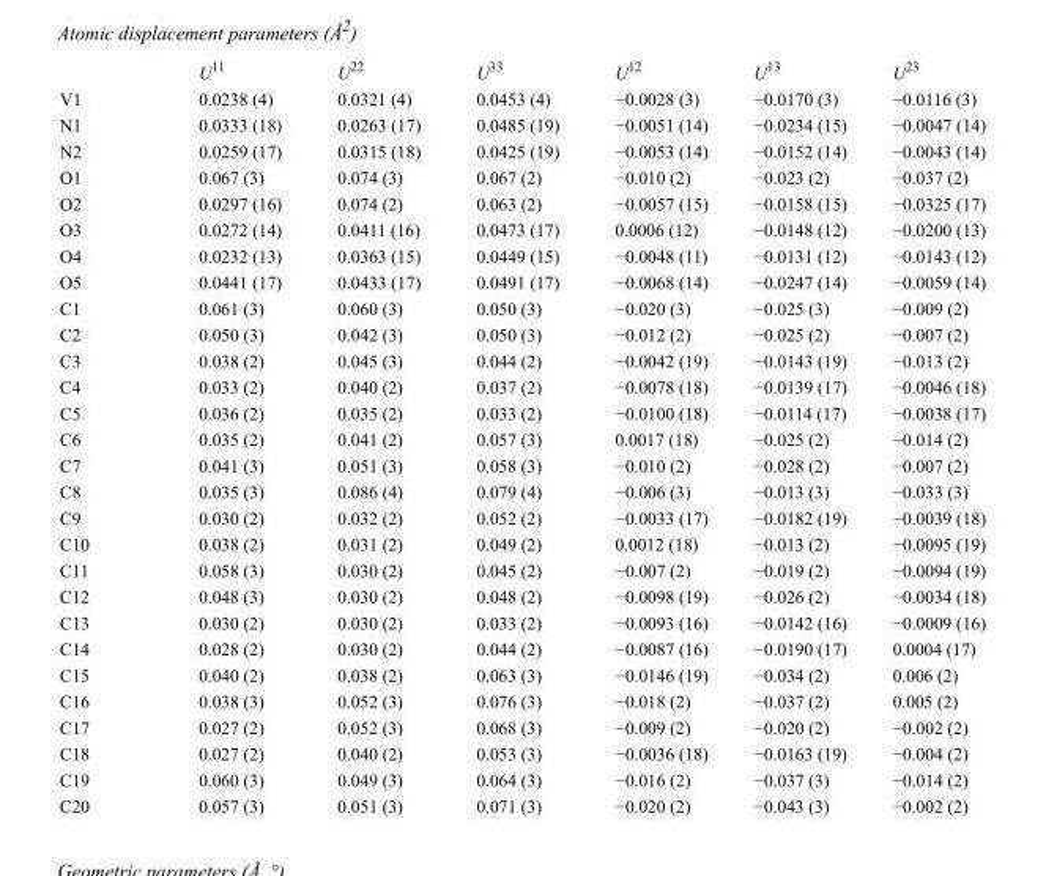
<table><thead><tr><td></td><td>U<sup>11</sup></td><td>U<sup>22</sup></td><td>U<sup>33</sup></td><td>U<sup>12</sup></td><td>U<sup>13</sup></td><td>U<sup>23</sup></td></tr></thead><tbody><tr><td>V1</td><td>0.0238 (4)</td><td>0.0321 (4)</td><td>0.0453 (4)</td><td>−0.0028 (3)</td><td>−0.0170 (3)</td><td>−0.0116 (3)</td></tr><tr><td>N1</td><td>0.0333 (18)</td><td>0.0263 (17)</td><td>0.0485 (19)</td><td>−0.0051 (14)</td><td>−0.0234 (15)</td><td>−0.0047 (14)</td></tr><tr><td>N2</td><td>0.0259 (17)</td><td>0.0315 (18)</td><td>0.0425 (19)</td><td>−0.0053 (14)</td><td>−0.0152 (14)</td><td>−0.0043 (14)</td></tr><tr><td>O1</td><td>0.067 (3)</td><td>0.074 (3)</td><td>0.067 (2)</td><td>−0.010 (2)</td><td>−0.023 (2)</td><td>−0.037 (2)</td></tr><tr><td>O2</td><td>0.0297 (16)</td><td>0.074 (2)</td><td>0.063 (2)</td><td>−0.0057 (15)</td><td>−0.0158 (15)</td><td>−0.0325 (17)</td></tr><tr><td>O3</td><td>0.0272 (14)</td><td>0.0411 (16)</td><td>0.0473 (17)</td><td>0.0006 (12)</td><td>−0.0148 (12)</td><td>−0.0200 (13)</td></tr><tr><td>O4</td><td>0.0232 (13)</td><td>0.0363 (15)</td><td>0.0449 (15)</td><td>−0.0048 (11)</td><td>−0.0131 (12)</td><td>−0.0143 (12)</td></tr><tr><td>O5</td><td>0.0441 (17)</td><td>0.0433 (17)</td><td>0.0491 (17)</td><td>−0.0068 (14)</td><td>−0.0247 (14)</td><td>−0.0059 (14)</td></tr><tr><td>C1</td><td>0.061 (3)</td><td>0.060 (3)</td><td>0.050 (3)</td><td>−0.020 (3)</td><td>−0.025 (3)</td><td>−0.009 (2)</td></tr><tr><td>C2</td><td>0.050 (3)</td><td>0.042 (3)</td><td>0.050 (3)</td><td>−0.012 (2)</td><td>−0.025 (2)</td><td>−0.007 (2)</td></tr><tr><td>C3</td><td>0.038 (2)</td><td>0.045 (3)</td><td>0.044 (2)</td><td>−0.0042 (19)</td><td>−0.0143 (19)</td><td>−0.013 (2)</td></tr><tr><td>C4</td><td>0.033 (2)</td><td>0.040 (2)</td><td>0.037 (2)</td><td>−0.0078 (18)</td><td>−0.0139 (17)</td><td>−0.0046 (18)</td></tr><tr><td>C5</td><td>0.036 (2)</td><td>0.035 (2)</td><td>0.033 (2)</td><td>−0.0100 (18)</td><td>−0.0114 (17)</td><td>−0.0038 (17)</td></tr><tr><td>C6</td><td>0.035 (2)</td><td>0.041 (2)</td><td>0.057 (3)</td><td>0.0017 (18)</td><td>−0.025 (2)</td><td>−0.014 (2)</td></tr><tr><td>C7</td><td>0.041 (3)</td><td>0.051 (3)</td><td>0.058 (3)</td><td>−0.010 (2)</td><td>−0.028 (2)</td><td>−0.007 (2)</td></tr><tr><td>C8</td><td>0.035 (3)</td><td>0.086 (4)</td><td>0.079 (4)</td><td>−0.006 (3)</td><td>−0.013 (3)</td><td>−0.033 (3)</td></tr><tr><td>C9</td><td>0.030 (2)</td><td>0.032 (2)</td><td>0.052 (2)</td><td>−0.0033 (17)</td><td>−0.0182 (19)</td><td>−0.0039 (18)</td></tr><tr><td>C10</td><td>0.038 (2)</td><td>0.031 (2)</td><td>0.049 (2)</td><td>0.0012 (18)</td><td>−0.013 (2)</td><td>−0.0095 (19)</td></tr><tr><td>C11</td><td>0.058 (3)</td><td>0.030 (2)</td><td>0.045 (2)</td><td>−0.007 (2)</td><td>−0.019 (2)</td><td>−0.0094 (19)</td></tr><tr><td>C12</td><td>0.048 (3)</td><td>0.030 (2)</td><td>0.048 (2)</td><td>−0.0098 (19)</td><td>−0.026 (2)</td><td>−0.0034 (18)</td></tr><tr><td>C13</td><td>0.030 (2)</td><td>0.030 (2)</td><td>0.033 (2)</td><td>−0.0093 (16)</td><td>−0.0142 (16)</td><td>−0.0009 (16)</td></tr><tr><td>C14</td><td>0.028 (2)</td><td>0.030 (2)</td><td>0.044 (2)</td><td>−0.0087 (16)</td><td>−0.0190 (17)</td><td>0.0004 (17)</td></tr><tr><td>C15</td><td>0.040 (2)</td><td>0.038 (2)</td><td>0.063 (3)</td><td>−0.0146 (19)</td><td>−0.034 (2)</td><td>0.006 (2)</td></tr><tr><td>C16</td><td>0.038 (3)</td><td>0.052 (3)</td><td>0.076 (3)</td><td>−0.018 (2)</td><td>−0.037 (2)</td><td>0.005 (2)</td></tr><tr><td>C17</td><td>0.027 (2)</td><td>0.052 (3)</td><td>0.068 (3)</td><td>−0.009 (2)</td><td>−0.020 (2)</td><td>−0.002 (2)</td></tr><tr><td>C18</td><td>0.027 (2)</td><td>0.040 (2)</td><td>0.053 (3)</td><td>−0.0036 (18)</td><td>−0.0163 (19)</td><td>−0.004 (2)</td></tr><tr><td>C19</td><td>0.060 (3)</td><td>0.049 (3)</td><td>0.064 (3)</td><td>−0.016 (2)</td><td>−0.037 (3)</td><td>−0.014 (2)</td></tr><tr><td>C20</td><td>0.057 (3)</td><td>0.051 (3)</td><td>0.071 (3)</td><td>−0.020 (2)</td><td>−0.043 (3)</td><td>−0.002 (2)</td></tr></tbody></table>